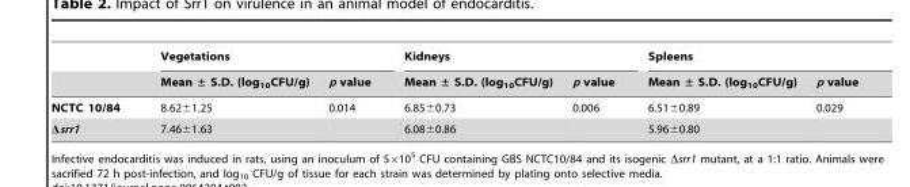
<table><thead><tr><td rowspan="2"></td><td colspan="2">Vegetations</td><td colspan="2">Kidneys</td><td colspan="2">Spleens</td></tr><tr><td>Mean ± S.D. (log<sub>10</sub>CFU/g)</td><td>p value</td><td>Mean ± S.D. (log<sub>10</sub>CFU/g)</td><td>p value</td><td>Mean ± S.D. (log<sub>10</sub>CFU/g)</td><td>p value</td></tr></thead><tbody><tr><td>NCTC 10/84</td><td>8.62±1.25</td><td>0.014</td><td>6.85±0.73</td><td>0.006</td><td>6.51±0.89</td><td>0.029</td></tr><tr><td>Δsrr1</td><td>7.46±1.63</td><td></td><td>6.08±0.86</td><td></td><td>5.96±0.80</td><td></td></tr></tbody></table>